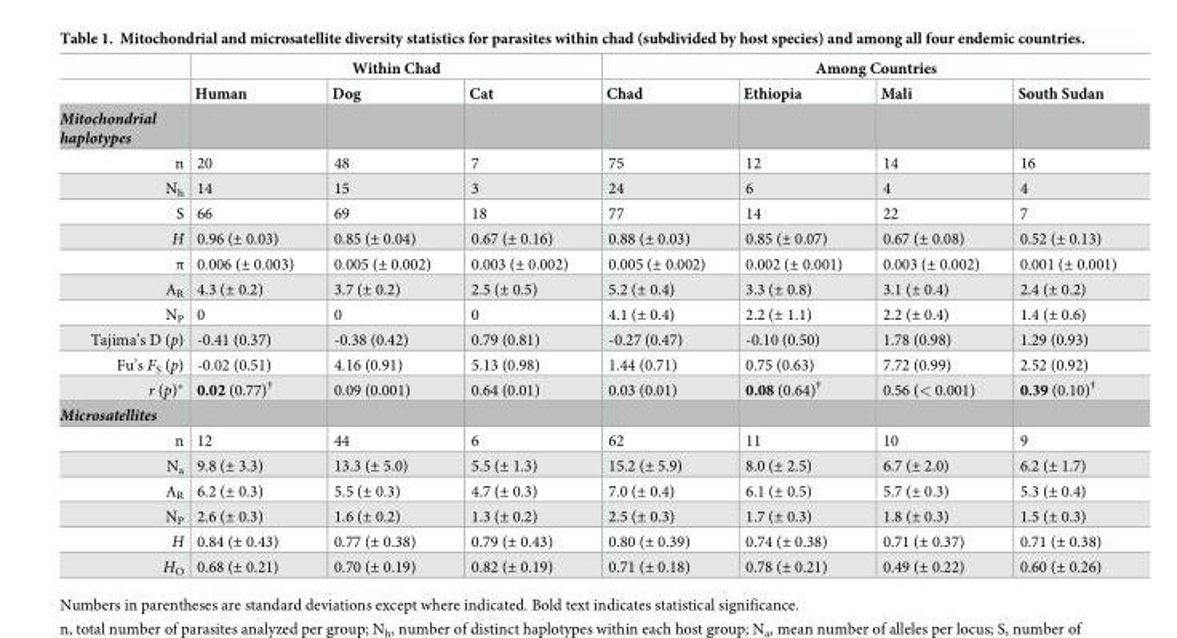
<table><thead><tr><td rowspan="2"></td><td colspan="3">Within Chad</td><td colspan="4">Among Countries</td></tr><tr><td>Human</td><td>Dog</td><td>Cat</td><td>Chad</td><td>Ethiopia</td><td>Mali</td><td>South Sudan</td></tr></thead><tbody><tr><td colspan="8">Mitochondrial haplotypes</td></tr><tr><td>n</td><td>20</td><td>48</td><td>7</td><td>75</td><td>12</td><td>14</td><td>16</td></tr><tr><td>N<sub>h</sub></td><td>14</td><td>15</td><td>3</td><td>24</td><td>6</td><td>4</td><td>4</td></tr><tr><td>S</td><td>66</td><td>69</td><td>18</td><td>77</td><td>14</td><td>22</td><td>7</td></tr><tr><td>H</td><td>0.96 (± 0.03)</td><td>0.85 (± 0.04)</td><td>0.67 (± 0.16)</td><td>0.88 (± 0.03)</td><td>0.85 (± 0.07)</td><td>0.67 (± 0.08)</td><td>0.52 (± 0.13)</td></tr><tr><td>π</td><td>0.006 (± 0.003)</td><td>0.005 (± 0.002)</td><td>0.003 (± 0.002)</td><td>0.005 (± 0.002)</td><td>0.002 (± 0.001)</td><td>0.003 (± 0.002)</td><td>0.001 (± 0.001)</td></tr><tr><td>A<sub>R</sub></td><td>4.3 (± 0.2)</td><td>3.7 (± 0.2)</td><td>2.5 (± 0.5)</td><td>5.2 (± 0.4)</td><td>3.3 (± 0.8)</td><td>3.1 (± 0.4)</td><td>2.4 (± 0.2)</td></tr><tr><td>N<sub>P</sub></td><td>0</td><td>0</td><td>0</td><td>4.1 (± 0.4)</td><td>2.2 (± 1.1)</td><td>2.2 (± 0.4)</td><td>1.4 (± 0.6)</td></tr><tr><td>Tajima’s D (p)</td><td>-0.41 (0.37)</td><td>-0.38 (0.42)</td><td>0.79 (0.81)</td><td>-0.27 (0.47)</td><td>-0.10 (0.50)</td><td>1.78 (0.98)</td><td>1.29 (0.93)</td></tr><tr><td>Fu’s F<sub>S</sub> (p)</td><td>-0.02 (0.51)</td><td>4.16 (0.91)</td><td>5.13 (0.98)</td><td>1.44 (0.71)</td><td>0.75 (0.63)</td><td>7.72 (0.99)</td><td>2.52 (0.92)</td></tr><tr><td>r (p)*</td><td>0.02 (0.77)<sup>†</sup></td><td>0.09 (0.001)</td><td>0.64 (0.01)</td><td>0.03 (0.01)</td><td>0.08 (0.64)<sup>†</sup></td><td>0.56 (&lt; 0.001)</td><td>0.39 (0.10)<sup>†</sup></td></tr><tr><td colspan="8">Microsatellites</td></tr><tr><td>n</td><td>12</td><td>44</td><td>6</td><td>62</td><td>11</td><td>10</td><td>9</td></tr><tr><td>N<sub>a</sub></td><td>9.8 (± 3.3)</td><td>13.3 (± 5.0)</td><td>5.5 (± 1.3)</td><td>15.2 (± 5.9)</td><td>8.0 (± 2.5)</td><td>6.7 (± 2.0)</td><td>6.2 (± 1.7)</td></tr><tr><td>A<sub>R</sub></td><td>6.2 (± 0.3)</td><td>5.5 (± 0.3)</td><td>4.7 (± 0.3)</td><td>7.0 (± 0.4)</td><td>6.1 (± 0.5)</td><td>5.7 (± 0.3)</td><td>5.3 (± 0.4)</td></tr><tr><td>N<sub>P</sub></td><td>2.6 (± 0.3)</td><td>1.6 (± 0.2)</td><td>1.3 (± 0.2)</td><td>2.5 (± 0.3)</td><td>1.7 (± 0.3)</td><td>1.8 (± 0.3)</td><td>1.5 (± 0.3)</td></tr><tr><td>H</td><td>0.84 (± 0.43)</td><td>0.77 (± 0.38)</td><td>0.79 (± 0.43)</td><td>0.80 (± 0.39)</td><td>0.74 (± 0.38)</td><td>0.71 (± 0.37)</td><td>0.71 (± 0.38)</td></tr><tr><td>H<sub>O</sub></td><td>0.68 (± 0.21)</td><td>0.70 (± 0.19)</td><td>0.82 (± 0.19)</td><td>0.71 (± 0.18)</td><td>0.78 (± 0.21)</td><td>0.49 (± 0.22)</td><td>0.60 (± 0.26)</td></tr></tbody></table>